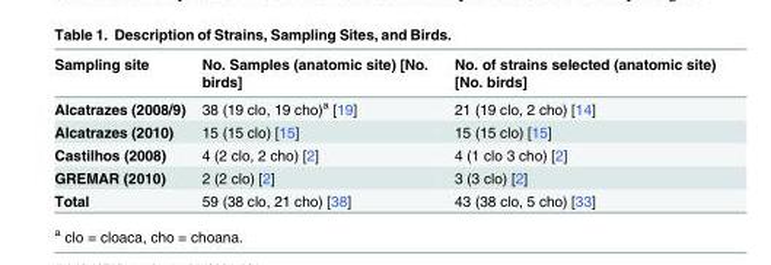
<table><thead><tr><td>Sampling site</td><td>No. Samples (anatomic site) [No. birds]</td><td>No. of strains selected (anatomic site) [No. birds]</td></tr></thead><tbody><tr><td>Alcatrazes (2008/9)</td><td>38 (19 clo, 19 cho)<sup>a</sup> [19]</td><td>21 (19 clo, 2 cho) [14]</td></tr><tr><td>Alcatrazes (2010)</td><td>15 (15 clo) [15]</td><td>15 (15 clo) [15]</td></tr><tr><td>Castilhos (2008)</td><td>4 (2 clo, 2 cho) [2]</td><td>4 (1 clo 3 cho) [2]</td></tr><tr><td>GREMAR (2010)</td><td>2 (2 clo) [2]</td><td>3 (3 clo) [2]</td></tr><tr><td>Total</td><td>59 (38 clo, 21 cho) [38]</td><td>43 (38 clo, 5 cho) [33]</td></tr></tbody></table>